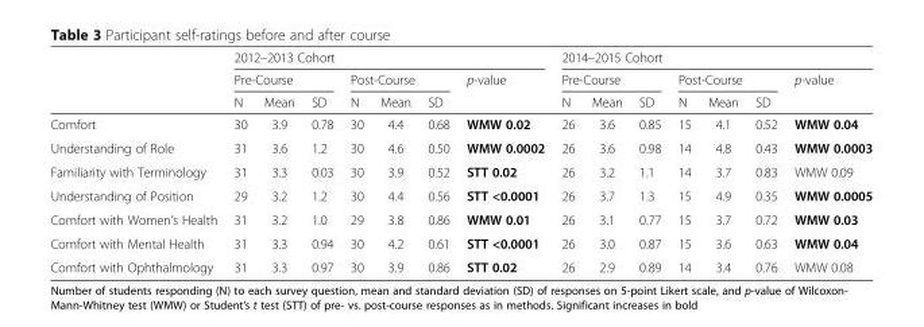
<table><thead><tr><td rowspan="3"></td><td colspan="7">2012–2013 Cohort</td><td colspan="7">2014–2015 Cohort</td></tr><tr><td colspan="3">Pre-Course</td><td colspan="3">Post-Course</td><td rowspan="2">p-value</td><td colspan="3">Pre-Course</td><td colspan="3">Post-Course</td><td rowspan="2">p-value</td></tr><tr><td>N</td><td>Mean</td><td>SD</td><td>N</td><td>Mean</td><td>SD</td><td>N</td><td>Mean</td><td>SD</td><td>N</td><td>Mean</td><td>SD</td></tr></thead><tbody><tr><td>Comfort</td><td>30</td><td>3.9</td><td>0.78</td><td>30</td><td>4.4</td><td>0.68</td><td>WMW 0.02</td><td>26</td><td>3.6</td><td>0.85</td><td>15</td><td>4.1</td><td>0.52</td><td>WMW 0.04</td></tr><tr><td>Understanding of Role</td><td>31</td><td>3.6</td><td>1.2</td><td>30</td><td>4.6</td><td>0.50</td><td>WMW 0.0002</td><td>26</td><td>3.6</td><td>0.98</td><td>14</td><td>4.8</td><td>0.43</td><td>WMW 0.0003</td></tr><tr><td>Familiarity with Terminology</td><td>31</td><td>3.3</td><td>0.03</td><td>30</td><td>3.9</td><td>0.52</td><td>STT 0.02</td><td>26</td><td>3.2</td><td>1.1</td><td>14</td><td>3.7</td><td>0.83</td><td>WMW 0.09</td></tr><tr><td>Understanding of Position</td><td>29</td><td>3.2</td><td>1.2</td><td>30</td><td>4.4</td><td>0.56</td><td>STT &lt;0.0001</td><td>26</td><td>3.7</td><td>1.3</td><td>15</td><td>4.9</td><td>0.35</td><td>WMW 0.0005</td></tr><tr><td>Comfort with Women’s Health</td><td>31</td><td>3.2</td><td>1.0</td><td>29</td><td>3.8</td><td>0.86</td><td>WMW 0.01</td><td>26</td><td>3.1</td><td>0.77</td><td>15</td><td>3.7</td><td>0.72</td><td>WMW 0.03</td></tr><tr><td>Comfort with Mental Health</td><td>31</td><td>3.3</td><td>0.94</td><td>30</td><td>4.2</td><td>0.61</td><td>STT &lt;0.0001</td><td>26</td><td>3.0</td><td>0.87</td><td>15</td><td>3.6</td><td>0.63</td><td>WMW 0.04</td></tr><tr><td>Comfort with Ophthalmology</td><td>31</td><td>3.3</td><td>0.97</td><td>30</td><td>3.9</td><td>0.86</td><td>STT 0.02</td><td>26</td><td>2.9</td><td>0.89</td><td>14</td><td>3.4</td><td>0.76</td><td>WMW 0.08</td></tr></tbody></table>